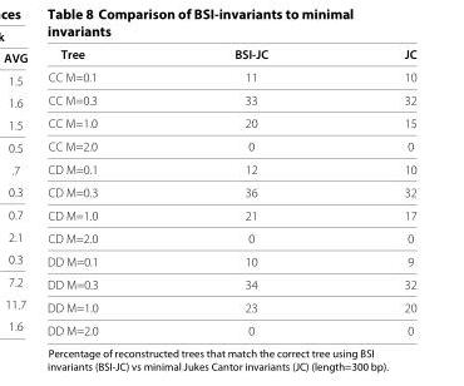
<table><thead><tr><td>Tree</td><td>BSI-JC</td><td>JC</td></tr></thead><tbody><tr><td>CC M=0.1</td><td>11</td><td>10</td></tr><tr><td>CC M=0.3</td><td>33</td><td>32</td></tr><tr><td>CC M=1.0</td><td>20</td><td>15</td></tr><tr><td>CC M=2.0</td><td>0</td><td>0</td></tr><tr><td>CD M=0.1</td><td>12</td><td>10</td></tr><tr><td>CD M=0.3</td><td>36</td><td>32</td></tr><tr><td>CD M=1.0</td><td>21</td><td>17</td></tr><tr><td>CD M=2.0</td><td>0</td><td>0</td></tr><tr><td>DD M=0.1</td><td>10</td><td>9</td></tr><tr><td>DD M=0.3</td><td>34</td><td>32</td></tr><tr><td>DD M=1.0</td><td>23</td><td>20</td></tr><tr><td>DD M=2.0</td><td>0</td><td>0</td></tr></tbody></table>